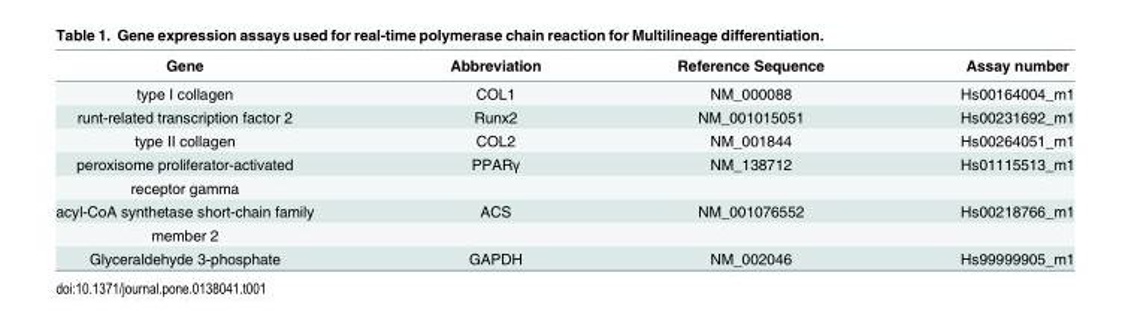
<table><thead><tr><td>Gene</td><td>Abbreviation</td><td>Reference Sequence</td><td>Assay number</td></tr></thead><tbody><tr><td>type I collagen</td><td>COL1</td><td>NM_000088</td><td>Hs00164004_m1</td></tr><tr><td>runt-related transcription factor 2</td><td>Runx2</td><td>NM_001015051</td><td>Hs00231692_m1</td></tr><tr><td>type II collagen</td><td>COL2</td><td>NM_001844</td><td>Hs00264051_m1</td></tr><tr><td>peroxisome proliferator-activated</td><td>PPARγ</td><td>NM_138712</td><td>Hs01115513_m1</td></tr><tr><td colspan="4">receptor gamma</td></tr><tr><td>acyl-CoA synthetase short-chain family</td><td>ACS</td><td>NM_001076552</td><td>Hs00218766_m1</td></tr><tr><td colspan="4">member 2</td></tr><tr><td>Glyceraldehyde 3-phosphate</td><td>GAPDH</td><td>NM_002046</td><td>Hs99999905_m1</td></tr></tbody></table>